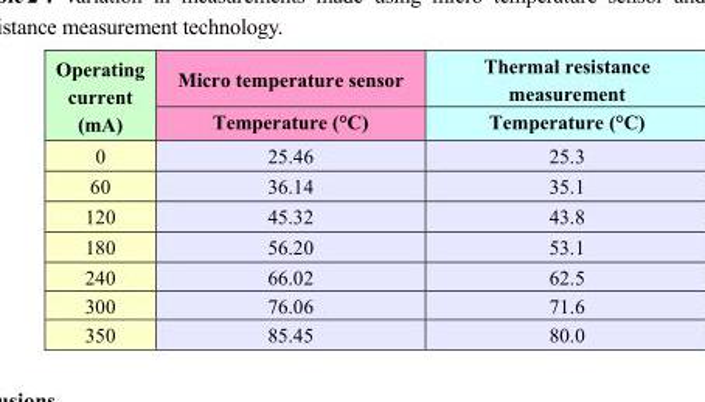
<table><thead><tr><td rowspan="2">Operating current (mA)</td><td rowspan="2">Micro temperature sensor Temperature (°C)</td><td rowspan="2">Thermal resistance measurement Temperature (°C)</td></tr><tr></tr></thead><tbody><tr><td>0</td><td>25.46</td><td>25.3</td></tr><tr><td>60</td><td>36.14</td><td>35.1</td></tr><tr><td>120</td><td>45.32</td><td>43.8</td></tr><tr><td>180</td><td>56.20</td><td>53.1</td></tr><tr><td>240</td><td>66.02</td><td>62.5</td></tr><tr><td>300</td><td>76.06</td><td>71.6</td></tr><tr><td>350</td><td>85.45</td><td>80.0</td></tr></tbody></table>